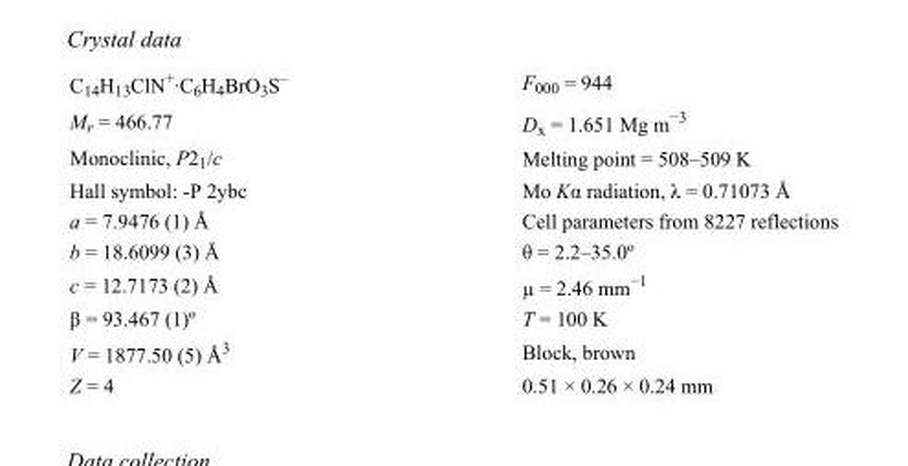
<table><tbody><tr><td>C<sub>14</sub>H<sub>13</sub>ClN<sup>+</sup>·C<sub>6</sub>H<sub>4</sub>BrO<sub>3</sub>S<sup>–</sup></td><td>F000 = 944</td></tr><tr><td>M<sub>r</sub> = 466.77</td><td>D<sub>x</sub> = 1.651 Mg m<sup>−3</sup></td></tr><tr><td>Monoclinic, P2<sub>1</sub>/c</td><td>Melting point = 508–509 K</td></tr><tr><td>Hall symbol: -P 2ybc</td><td>Mo Kα radiation, λ = 0.71073 Å</td></tr><tr><td>a = 7.9476 (1) Å</td><td>Cell parameters from 8227 reflections</td></tr><tr><td>b = 18.6099 (3) Å</td><td>θ = 2.2–35.0º</td></tr><tr><td>c = 12.7173 (2) Å</td><td>µ = 2.46 mm<sup>−1</sup></td></tr><tr><td>β = 93.467 (1)º</td><td>T = 100 K</td></tr><tr><td>V = 1877.50 (5) Å<sup>3</sup></td><td>Block, brown</td></tr><tr><td>Z = 4</td><td>0.51 × 0.26 × 0.24 mm</td></tr></tbody></table>